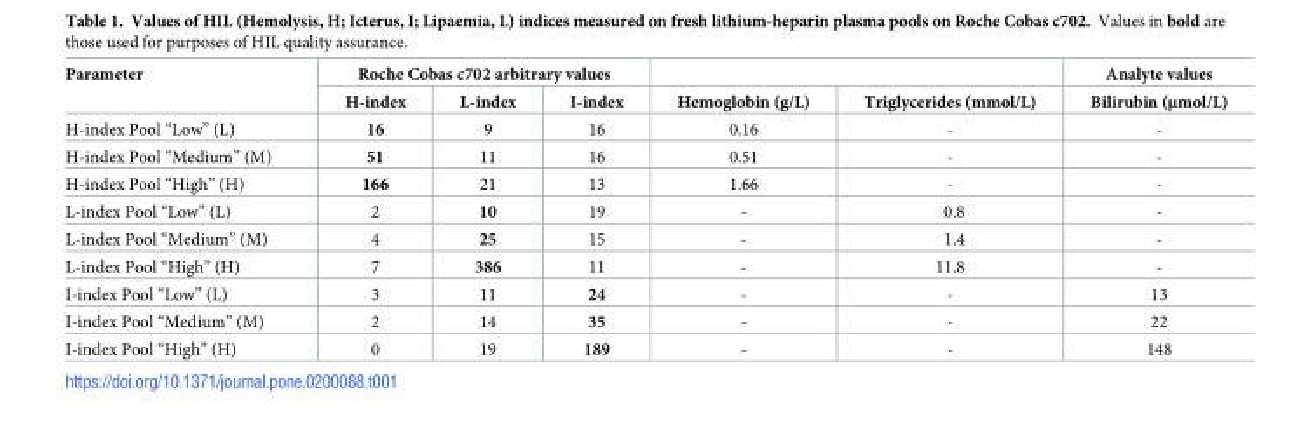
<table><thead><tr><td rowspan="2">Parameter</td><td colspan="3">Roche Cobas c702 arbitrary values</td><td rowspan="2">Hemoglobin (g/L)</td><td rowspan="2">Triglycerides (mmol/L)</td><td rowspan="2">Analyte values Bilirubin (μmol/L)</td></tr><tr><td>H-index</td><td>L-index</td><td>I-index</td></tr></thead><tbody><tr><td>H-index Pool “Low” (L)</td><td>16</td><td>9</td><td>16</td><td>0.16</td><td>-</td><td>-</td></tr><tr><td>H-index Pool “Medium” (M)</td><td>51</td><td>11</td><td>16</td><td>0.51</td><td>-</td><td>-</td></tr><tr><td>H-index Pool “High” (H)</td><td>166</td><td>21</td><td>13</td><td>1.66</td><td>-</td><td>-</td></tr><tr><td>L-index Pool “Low” (L)</td><td>2</td><td>10</td><td>19</td><td>-</td><td>0.8</td><td>-</td></tr><tr><td>L-index Pool “Medium” (M)</td><td>4</td><td>25</td><td>15</td><td>-</td><td>1.4</td><td>-</td></tr><tr><td>L-index Pool “High” (H)</td><td>7</td><td>386</td><td>11</td><td>-</td><td>11.8</td><td>-</td></tr><tr><td>I-index Pool “Low” (L)</td><td>3</td><td>11</td><td>24</td><td>-</td><td>-</td><td>13</td></tr><tr><td>I-index Pool “Medium” (M)</td><td>2</td><td>14</td><td>35</td><td>-</td><td>-</td><td>22</td></tr><tr><td>I-index Pool “High” (H)</td><td>0</td><td>19</td><td>189</td><td>-</td><td>-</td><td>148</td></tr></tbody></table>